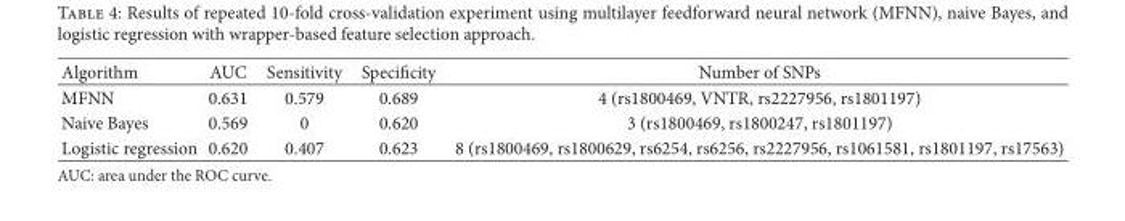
<table><thead><tr><td>Algorithm</td><td>AUC</td><td>Sensitivity</td><td>Speci�city</td><td>Number of SNPs</td></tr></thead><tbody><tr><td>MFNN</td><td>0.631</td><td>0.579</td><td>0.689</td><td>4 (rs1800469, VNTR, rs2227956, rs1801197)</td></tr><tr><td>Naive Bayes</td><td>0.569</td><td>0</td><td>0.620</td><td>3 (rs1800469, rs1800247, rs1801197)</td></tr><tr><td>Logistic regression</td><td>0.620</td><td>0.407</td><td>0.623</td><td>8 (rs1800469, rs1800629, rs6254, rs6256, rs2227956, rs1061581, rs1801197, rs17563)</td></tr></tbody></table>